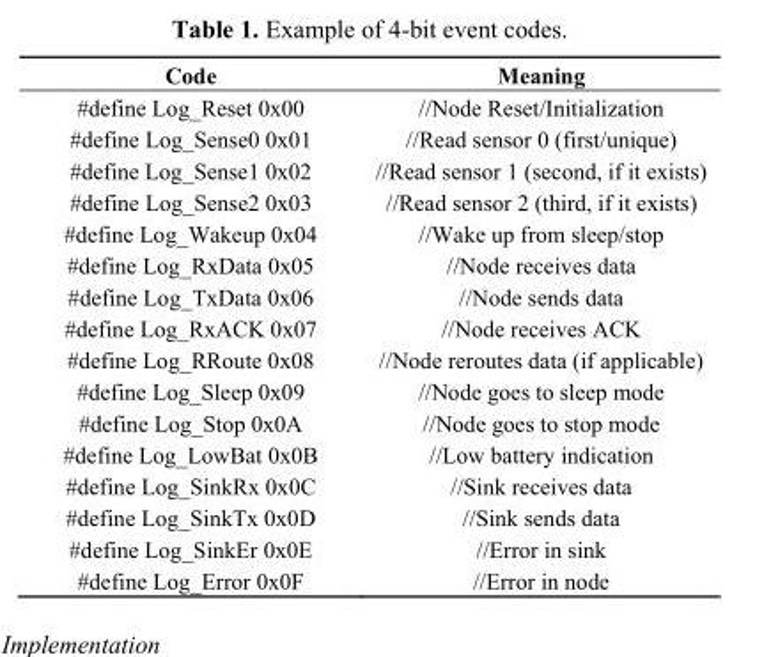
<table><thead><tr><td>Code</td><td>Meaning</td></tr></thead><tbody><tr><td>#define Log_Reset 0x00</td><td>//Node Reset/Initialization</td></tr><tr><td>#define Log_Sense0 0x01</td><td>//Read sensor 0 (first/unique)</td></tr><tr><td>#define Log_Sense1 0x02</td><td>//Read sensor 1 (second, if it exists)</td></tr><tr><td>#define Log_Sense2 0x03</td><td>//Read sensor 2 (third, if it exists)</td></tr><tr><td>#define Log_Wakeup 0x04</td><td>//Wake up from sleep/stop</td></tr><tr><td>#define Log_RxData 0x05</td><td>//Node receives data</td></tr><tr><td>#define Log_TxData 0x06</td><td>//Node sends data</td></tr><tr><td>#define Log_RxACK 0x07</td><td>//Node receives ACK</td></tr><tr><td>#define Log_RRoute 0x08</td><td>//Node reroutes data (if applicable)</td></tr><tr><td>#define Log_Sleep 0x09</td><td>//Node goes to sleep mode</td></tr><tr><td>#define Log_Stop 0x0A</td><td>//Node goes to stop mode</td></tr><tr><td>#define Log_LowBat 0x0B</td><td>//Low battery indication</td></tr><tr><td>#define Log_SinkRx 0x0C</td><td>//Sink receives data</td></tr><tr><td>#define Log_SinkTx 0x0D</td><td>//Sink sends data</td></tr><tr><td>#define Log_SinkEr 0x0E</td><td>//Error in sink</td></tr><tr><td>#define Log_Error 0x0F</td><td>//Error in node</td></tr></tbody></table>